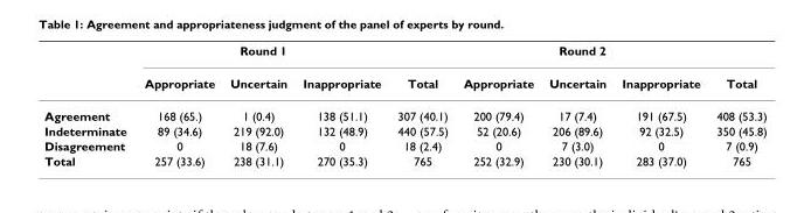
<table><thead><tr><td rowspan="2"></td><td colspan="3">Round 1</td><td rowspan="2">Total</td><td colspan="3">Round 2</td><td rowspan="2">Total</td></tr><tr><td>Appropriate</td><td>Uncertain</td><td>Inappropriate</td><td>Appropriate</td><td>Uncertain</td><td>Inappropriate</td></tr></thead><tbody><tr><td>Agreement</td><td>168 (65.)</td><td>1 (0.4)</td><td>138 (51.1)</td><td>307 (40.1)</td><td>200 (79.4)</td><td>17 (7.4)</td><td>191 (67.5)</td><td>408 (53.3)</td></tr><tr><td>Indeterminate</td><td>89 (34.6)</td><td>219 (92.0)</td><td>132 (48.9)</td><td>440 (57.5)</td><td>52 (20.6)</td><td>206 (89.6)</td><td>92 (32.5)</td><td>350 (45.8)</td></tr><tr><td>Disagreement</td><td>0</td><td>18 (7.6)</td><td>0</td><td>18 (2.4)</td><td>0</td><td>7 (3.0)</td><td>0</td><td>7 (0.9)</td></tr><tr><td>Total</td><td>257 (33.6)</td><td>238 (31.1)</td><td>270 (35.3)</td><td>765</td><td>252 (32.9)</td><td>230 (30.1)</td><td>283 (37.0)</td><td>765</td></tr></tbody></table>